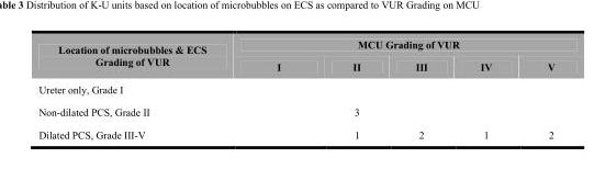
<table><thead><tr><td rowspan="2">Location of microbubbles &amp; ECS Grading of VUR</td><td colspan="5">MCU Grading of VUR</td></tr><tr><td>I</td><td>II</td><td>III</td><td>IV</td><td>V</td></tr></thead><tbody><tr><td colspan="6">Ureter only, Grade I</td></tr><tr><td>Non-dilated PCS, Grade II</td><td></td><td>3</td><td></td><td></td><td></td></tr><tr><td>Dilated PCS, Grade III-V</td><td></td><td>1</td><td>2</td><td>1</td><td>2</td></tr></tbody></table>